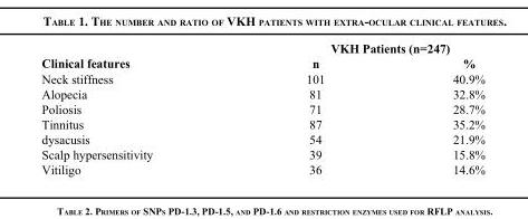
<table><thead><tr><td rowspan="2">Clinical features</td><td colspan="2">VKH Patients (n=247)</td></tr><tr><td>n</td><td>%</td></tr></thead><tbody><tr><td>Neck stiffness</td><td>101</td><td>40.9%</td></tr><tr><td>Alopecia</td><td>81</td><td>32.8%</td></tr><tr><td>Poliosis</td><td>71</td><td>28.7%</td></tr><tr><td>Tinnitus</td><td>87</td><td>35.2%</td></tr><tr><td>dysacusis</td><td>54</td><td>21.9%</td></tr><tr><td>Scalp hypersensitivity</td><td>39</td><td>15.8%</td></tr><tr><td>Vitiligo</td><td>36</td><td>14.6%</td></tr></tbody></table>